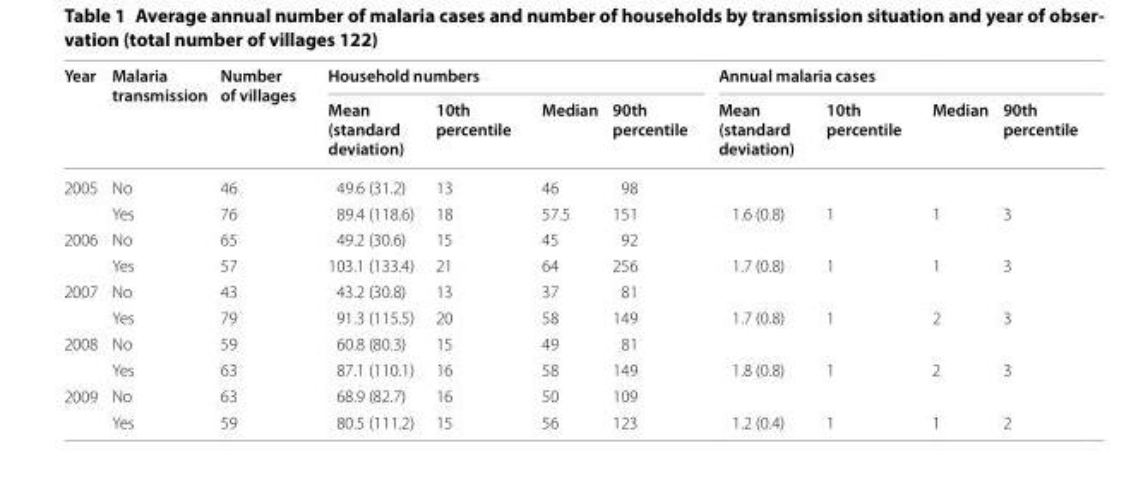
<table><thead><tr><td rowspan="2">Year</td><td rowspan="2">Malaria transmission</td><td rowspan="2">Number of villages</td><td colspan="4">Household numbers</td><td colspan="4">Annual malaria cases</td></tr><tr><td>Mean (standard deviation)</td><td>10th percentile</td><td>Median</td><td>90th percentile</td><td>Mean (standard deviation)</td><td>10th percentile</td><td>Median</td><td>90th percentile</td></tr></thead><tbody><tr><td rowspan="2">2005</td><td>No</td><td>46</td><td>49.6 (31.2)</td><td>13</td><td>46</td><td>98</td><td></td><td></td><td></td><td></td></tr><tr><td>Yes</td><td>76</td><td>89.4 (118.6)</td><td>18</td><td>57.5</td><td>151</td><td>1.6 (0.8)</td><td>1</td><td>1</td><td>3</td></tr><tr><td rowspan="2">2006</td><td>No</td><td>65</td><td>49.2 (30.6)</td><td>15</td><td>45</td><td>92</td><td></td><td></td><td></td><td></td></tr><tr><td>Yes</td><td>57</td><td>103.1 (133.4)</td><td>21</td><td>64</td><td>256</td><td>1.7 (0.8)</td><td>1</td><td>1</td><td>3</td></tr><tr><td rowspan="2">2007</td><td>No</td><td>43</td><td>43.2 (30.8)</td><td>13</td><td>37</td><td>81</td><td></td><td></td><td></td><td></td></tr><tr><td>Yes</td><td>79</td><td>91.3 (115.5)</td><td>20</td><td>58</td><td>149</td><td>1.7 (0.8)</td><td>1</td><td>2</td><td>3</td></tr><tr><td rowspan="2">2008</td><td>No</td><td>59</td><td>60.8 (80.3)</td><td>15</td><td>49</td><td>81</td><td></td><td></td><td></td><td></td></tr><tr><td>Yes</td><td>63</td><td>87.1 (110.1)</td><td>16</td><td>58</td><td>149</td><td>1.8 (0.8)</td><td>1</td><td>2</td><td>3</td></tr><tr><td rowspan="2">2009</td><td>No</td><td>63</td><td>68.9 (82.7)</td><td>16</td><td>50</td><td>109</td><td></td><td></td><td></td><td></td></tr><tr><td>Yes</td><td>59</td><td>80.5 (111.2)</td><td>15</td><td>56</td><td>123</td><td>1.2 (0.4)</td><td>1</td><td>1</td><td>2</td></tr></tbody></table>